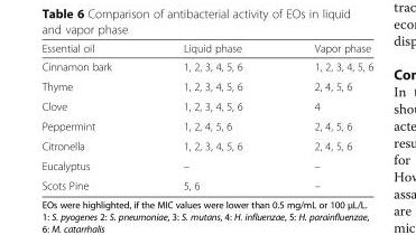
<table><thead><tr><td>Essential oil</td><td>Liquid phase</td><td>Vapor phase</td></tr></thead><tbody><tr><td>Cinnamon bark</td><td>1, 2, 3, 4, 5, 6</td><td>1, 2, 3, 4, 5, 6</td></tr><tr><td>Thyme</td><td>1, 2, 3, 4, 5, 6</td><td>2, 4, 5, 6</td></tr><tr><td>Clove</td><td>1, 2, 3, 4, 5, 6</td><td>4</td></tr><tr><td>Peppermint</td><td>1, 2, 4, 5, 6</td><td>2, 4, 5, 6</td></tr><tr><td>Citronella</td><td>1, 2, 3, 4, 5, 6</td><td>2, 4, 5, 6</td></tr><tr><td>Eucalyptus</td><td>–</td><td>–</td></tr><tr><td>Scots Pine</td><td>5, 6</td><td>–</td></tr></tbody></table>